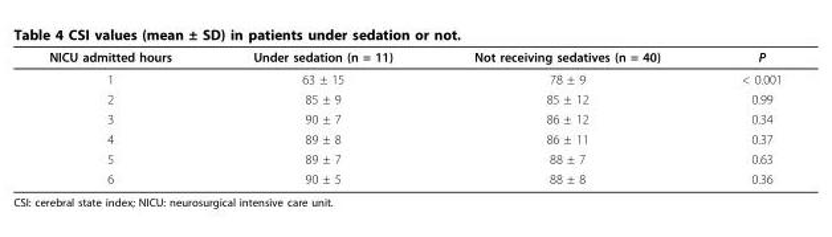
<table><thead><tr><td>NICU admitted hours</td><td>Under sedation (n = 11)</td><td>Not receiving sedatives (n = 40)</td><td>P</td></tr></thead><tbody><tr><td>1</td><td>63 ± 15</td><td>78 ± 9</td><td>&lt; 0.001</td></tr><tr><td>2</td><td>85 ± 9</td><td>85 ± 12</td><td>0.99</td></tr><tr><td>3</td><td>90 ± 7</td><td>86 ± 12</td><td>0.34</td></tr><tr><td>4</td><td>89 ± 8</td><td>86 ± 11</td><td>0.37</td></tr><tr><td>5</td><td>89 ± 7</td><td>88 ± 7</td><td>0.63</td></tr><tr><td>6</td><td>90 ± 5</td><td>88 ± 8</td><td>0.36</td></tr></tbody></table>